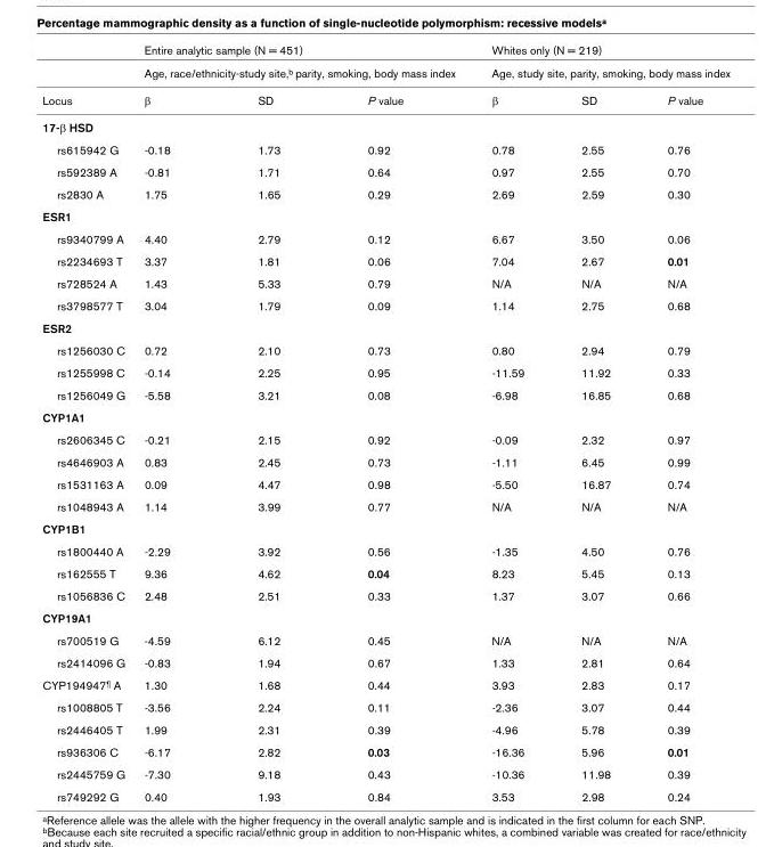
<table><thead><tr><td rowspan="3">Locus</td><td rowspan="2" colspan="3">Entire analytic sample (N = 451) Age, race/ethnicity-study site,b parity, smoking, body mass index</td><td rowspan="2" colspan="3">Whites only (N = 219) Age, study site, parity, smoking, body mass index</td></tr><tr></tr><tr><td>β</td><td>SD</td><td>P value</td><td>β</td><td>SD</td><td>P value</td></tr></thead><tbody><tr><td colspan="7">17-β HSD</td></tr><tr><td>rs615942 G</td><td>-0.18</td><td>1.73</td><td>0.92</td><td>0.78</td><td>2.55</td><td>0.76</td></tr><tr><td>rs592389 A</td><td>-0.81</td><td>1.71</td><td>0.64</td><td>0.97</td><td>2.55</td><td>0.70</td></tr><tr><td>rs2830 A</td><td>1.75</td><td>1.65</td><td>0.29</td><td>2.69</td><td>2.59</td><td>0.30</td></tr><tr><td colspan="7">ESR1</td></tr><tr><td>rs9340799 A</td><td>4.40</td><td>2.79</td><td>0.12</td><td>6.67</td><td>3.50</td><td>0.06</td></tr><tr><td>rs2234693 T</td><td>3.37</td><td>1.81</td><td>0.06</td><td>7.04</td><td>2.67</td><td>0.01</td></tr><tr><td>rs728524 A</td><td>1.43</td><td>5.33</td><td>0.79</td><td>N/A</td><td>N/A</td><td>N/A</td></tr><tr><td>rs3798577 T</td><td>3.04</td><td>1.79</td><td>0.09</td><td>1.14</td><td>2.75</td><td>0.68</td></tr><tr><td colspan="7">ESR2</td></tr><tr><td>rs1256030 C</td><td>0.72</td><td>2.10</td><td>0.73</td><td>0.80</td><td>2.94</td><td>0.79</td></tr><tr><td>rs1255998 C</td><td>-0.14</td><td>2.25</td><td>0.95</td><td>-11.59</td><td>11.92</td><td>0.33</td></tr><tr><td>rs1256049 G</td><td>-5.58</td><td>3.21</td><td>0.08</td><td>-6.98</td><td>16.85</td><td>0.68</td></tr><tr><td colspan="7">CYP1A1</td></tr><tr><td>rs2606345 C</td><td>-0.21</td><td>2.15</td><td>0.92</td><td>-0.09</td><td>2.32</td><td>0.97</td></tr><tr><td>rs4646903 A</td><td>0.83</td><td>2.45</td><td>0.73</td><td>-1.11</td><td>6.45</td><td>0.99</td></tr><tr><td>rs1531163 A</td><td>0.09</td><td>4.47</td><td>0.98</td><td>-5.50</td><td>16.87</td><td>0.74</td></tr><tr><td>rs1048943 A</td><td>1.14</td><td>3.99</td><td>0.77</td><td>N/A</td><td>N/A</td><td>N/A</td></tr><tr><td colspan="7">CYP1B1</td></tr><tr><td>rs1800440 A</td><td>-2.29</td><td>3.92</td><td>0.56</td><td>-1.35</td><td>4.50</td><td>0.76</td></tr><tr><td>rs162555 T</td><td>9.36</td><td>4.62</td><td>0.04</td><td>8.23</td><td>5.45</td><td>0.13</td></tr><tr><td>rs1056836 C</td><td>2.48</td><td>2.51</td><td>0.33</td><td>1.37</td><td>3.07</td><td>0.66</td></tr><tr><td colspan="7">CYP19A1</td></tr><tr><td>rs700519 G</td><td>-4.59</td><td>6.12</td><td>0.45</td><td>N/A</td><td>N/A</td><td>N/A</td></tr><tr><td>rs2414096 G</td><td>-0.83</td><td>1.94</td><td>0.67</td><td>1.33</td><td>2.81</td><td>0.64</td></tr><tr><td>CYP194947<sup>¶</sup> A</td><td>1.30</td><td>1.68</td><td>0.44</td><td>3.93</td><td>2.83</td><td>0.17</td></tr><tr><td>rs1008805 T</td><td>-3.56</td><td>2.24</td><td>0.11</td><td>-2.36</td><td>3.07</td><td>0.44</td></tr><tr><td>rs2446405 T</td><td>1.99</td><td>2.31</td><td>0.39</td><td>-4.96</td><td>5.78</td><td>0.39</td></tr><tr><td>rs936306 C</td><td>-6.17</td><td>2.82</td><td>0.03</td><td>-16.36</td><td>5.96</td><td>0.01</td></tr><tr><td>rs2445759 G</td><td>-7.30</td><td>9.18</td><td>0.43</td><td>-10.36</td><td>11.98</td><td>0.39</td></tr><tr><td>rs749292 G</td><td>0.40</td><td>1.93</td><td>0.84</td><td>3.53</td><td>2.98</td><td>0.24</td></tr></tbody></table>